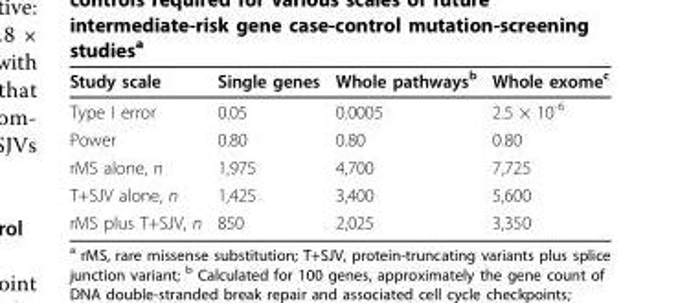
<table><thead><tr><td>Study scale</td><td>Single genes</td><td>Whole pathways<sup>b</sup></td><td>Whole exome<sup>c</sup></td></tr></thead><tbody><tr><td>Type I error</td><td>0.05</td><td>0.0005</td><td>2.5 × 10<sup>-6</sup></td></tr><tr><td>Power</td><td>0.80</td><td>0.80</td><td>0.80</td></tr><tr><td>rMS alone, n</td><td>1,975</td><td>4,700</td><td>7,725</td></tr><tr><td>T+SJV alone, n</td><td>1,425</td><td>3,400</td><td>5,600</td></tr><tr><td>rMS plus T+SJV, n</td><td>850</td><td>2,025</td><td>3,350</td></tr></tbody></table>